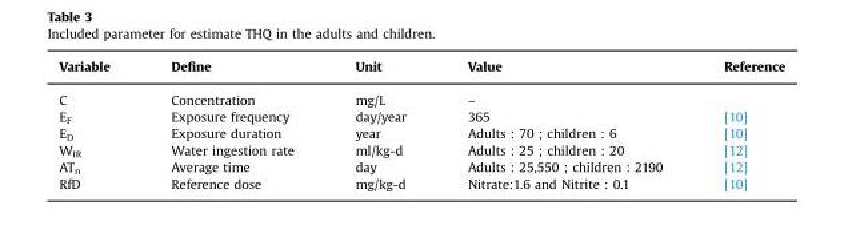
<table><thead><tr><td>Variable</td><td>Define</td><td>Unit</td><td>Value</td><td>Reference</td></tr></thead><tbody><tr><td>C</td><td>Concentration</td><td>mg/L</td><td>–</td><td></td></tr><tr><td>E<sub>F</sub></td><td>Exposure frequency</td><td>day/year</td><td>365</td><td>[10]</td></tr><tr><td>E<sub>D</sub></td><td>Exposure duration</td><td>year</td><td>Adults : 70 ; children : 6</td><td>[10]</td></tr><tr><td>W<sub>IR</sub></td><td>Water ingestion rate</td><td>ml/kg-d</td><td>Adults : 25 ; children : 20</td><td>[12]</td></tr><tr><td>AT<sub>n</sub></td><td>Average time</td><td>day</td><td>Adults : 25,550 ; children : 2190</td><td>[12]</td></tr><tr><td>RfD</td><td>Reference dose</td><td>mg/kg-d</td><td>Nitrate:1.6 and Nitrite : 0.1</td><td>[10]</td></tr></tbody></table>